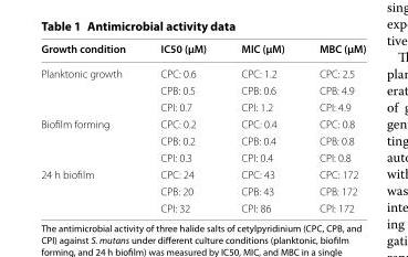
<table><thead><tr><td>Growth condition</td><td>IC50 (µM)</td><td>MIC (µM)</td><td>MBC (µM)</td></tr></thead><tbody><tr><td rowspan="3">Planktonic growth</td><td>CPC: 0.6</td><td>CPC: 1.2</td><td>CPC: 2.5</td></tr><tr><td>CPB: 0.5</td><td>CPB: 0.6</td><td>CPB: 4.9</td></tr><tr><td>CPI: 0.7</td><td>CPI: 1.2</td><td>CPI: 4.9</td></tr><tr><td rowspan="3">Biofilm forming</td><td>CPC: 0.2</td><td>CPC: 0.4</td><td>CPC: 0.8</td></tr><tr><td>CPB: 0.2</td><td>CPB: 0.4</td><td>CPB: 0.8</td></tr><tr><td>CPI: 0.3</td><td>CPI: 0.4</td><td>CPI: 0.8</td></tr><tr><td rowspan="3">24 h biofilm</td><td>CPC: 24</td><td>CPC: 43</td><td>CPC: 172</td></tr><tr><td>CPB: 20</td><td>CPB: 43</td><td>CPB: 172</td></tr><tr><td>CPI: 32</td><td>CPI: 86</td><td>CPI: 172</td></tr></tbody></table>